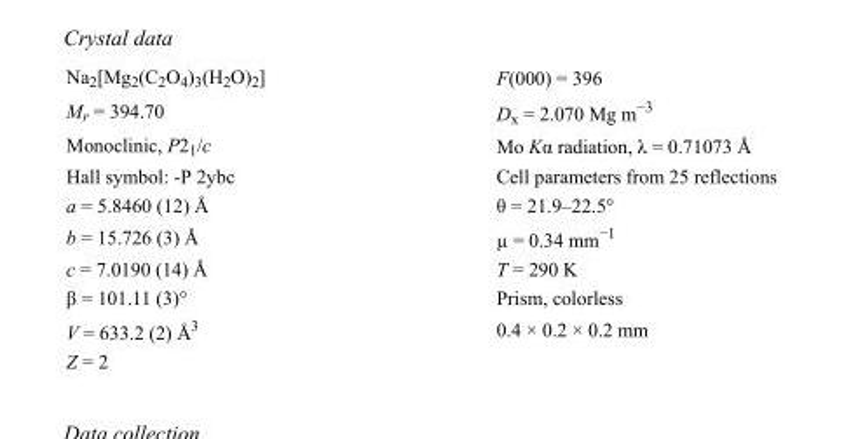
<table><tbody><tr><td>Na<sub>2</sub>[Mg<sub>2</sub>(C<sub>2</sub>O<sub>4</sub>)<sub>3</sub>(H<sub>2</sub>O)<sub>2</sub>]</td><td>F(000) = 396</td></tr><tr><td>M<sub>r</sub> = 394.70</td><td>D<sub>x</sub> = 2.070 Mg m<sup>−3</sup></td></tr><tr><td>Monoclinic, P2<sub>1</sub>/c</td><td>Mo Kα radiation, λ = 0.71073 Å</td></tr><tr><td>Hall symbol: -P 2ybc</td><td>Cell parameters from 25 reflections</td></tr><tr><td>a = 5.8460 (12) Å</td><td>θ = 21.9–22.5°</td></tr><tr><td>b = 15.726 (3) Å</td><td>µ = 0.34 mm<sup>−1</sup></td></tr><tr><td>c = 7.0190 (14) Å</td><td>T = 290 K</td></tr><tr><td>β = 101.11 (3)°</td><td>Prism, colorless</td></tr><tr><td>V = 633.2 (2) Å<sup>3</sup></td><td>0.4 × 0.2 × 0.2 mm</td></tr><tr><td>Z = 2</td><td></td></tr></tbody></table>